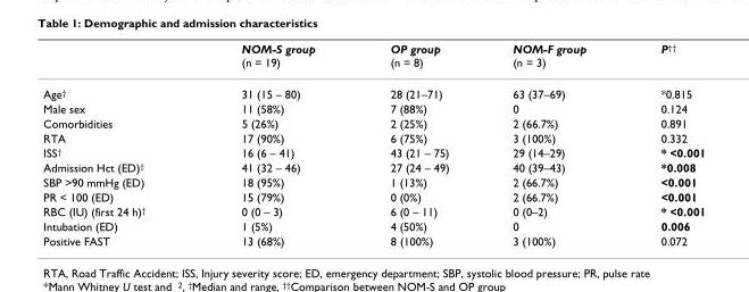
<table><thead><tr><td></td><td>NOM-S group (n = 19)</td><td>OP group (n = 8)</td><td>NOM-F group (n = 3)</td><td>P<sup>††</sup></td></tr></thead><tbody><tr><td>Age<sup>†</sup></td><td>31 (15 – 80)</td><td>28 (21–71)</td><td>63 (37–69)</td><td>*0.815</td></tr><tr><td>Male sex</td><td>11 (58%)</td><td>7 (88%)</td><td>0</td><td>0.124</td></tr><tr><td>Comorbidities</td><td>5 (26%)</td><td>2 (25%)</td><td>2 (66.7%)</td><td>0.891</td></tr><tr><td>RTA</td><td>17 (90%)</td><td>6 (75%)</td><td>3 (100%)</td><td>0.332</td></tr><tr><td>ISS<sup>†</sup></td><td>16 (6 – 41)</td><td>43 (21 – 75)</td><td>29 (14–29)</td><td>* &lt;0.001</td></tr><tr><td>Admission Hct (ED)<sup>†</sup></td><td>41 (32 – 46)</td><td>27 (24 – 49)</td><td>40 (39–43)</td><td>*0.008</td></tr><tr><td>SBP &gt;90 mmHg (ED)</td><td>18 (95%)</td><td>1 (13%)</td><td>2 (66.7%)</td><td>&lt;0.001</td></tr><tr><td>PR &lt; 100 (ED)</td><td>15 (79%)</td><td>0 (0%)</td><td>2 (66.7%)</td><td>&lt;0.001</td></tr><tr><td>RBC (IU) (first 24 h)<sup>†</sup></td><td>0 (0 – 3)</td><td>6 (0 – 11)</td><td>0 (0–2)</td><td>* &lt;0.001</td></tr><tr><td>Intubation (ED)</td><td>1 (5%)</td><td>4 (50%)</td><td>0</td><td>0.006</td></tr><tr><td>Positive FAST</td><td>13 (68%)</td><td>8 (100%)</td><td>3 (100%)</td><td>0.072</td></tr></tbody></table>